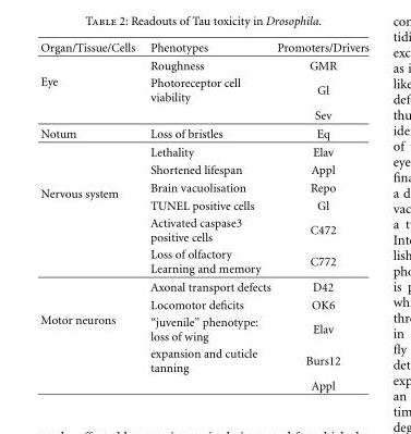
<table><thead><tr><td>Organ/Tissue/Cells</td><td>Phenotypes</td><td>Promoters/Drivers</td></tr></thead><tbody><tr><td rowspan="3">Eye</td><td>Roughness</td><td>GMR</td></tr><tr><td>Photoreceptor cell viability</td><td>Gl</td></tr><tr><td></td><td>Sev</td></tr><tr><td>Notum</td><td>Loss of bristles</td><td>Eq</td></tr><tr><td rowspan="6">Nervous system</td><td>Lethality</td><td>Elav</td></tr><tr><td>Shortened lifespan</td><td>Appl</td></tr><tr><td>Brain vacuolisation</td><td>Repo</td></tr><tr><td>TUNEL positive cells</td><td>Gl</td></tr><tr><td>Activated caspase3 positive cells</td><td>C472</td></tr><tr><td>Loss of olfactory Learning and memory</td><td>C772</td></tr><tr><td rowspan="5">Motor neurons</td><td>Axonal transport defects</td><td>D42</td></tr><tr><td>Locomotor deficits</td><td>OK6</td></tr><tr><td>“juvenile” phenotype: loss of wing</td><td>Elav</td></tr><tr><td>expansion and cuticle tanning</td><td>Burs12</td></tr><tr><td></td><td>Appl</td></tr></tbody></table>